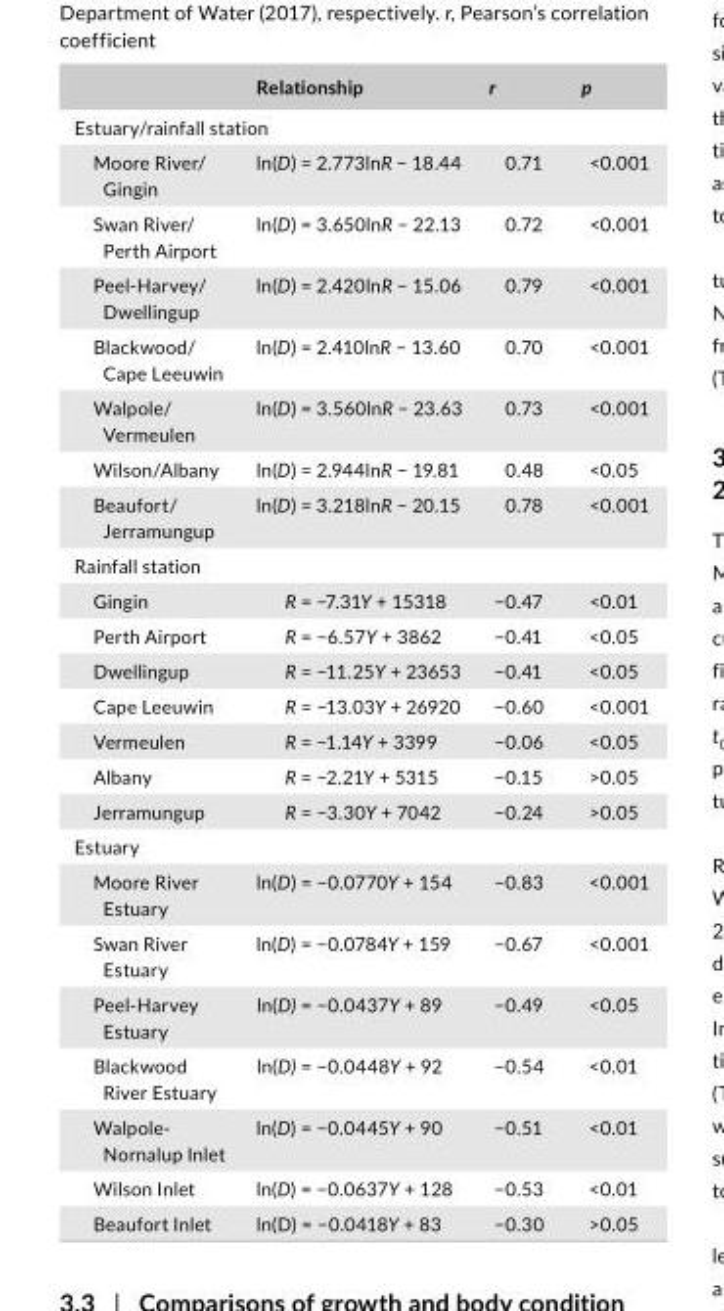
<table><thead><tr><td></td><td>Relationship</td><td>r</td><td>p</td></tr></thead><tbody><tr><td colspan="4">Estuary/rainfall station</td></tr><tr><td>Moore River/ Gingin</td><td>ln(D) = 2.773lnR − 18.44</td><td>0.71</td><td>&lt;0.001</td></tr><tr><td>Swan River/ Perth Airport</td><td>ln(D) = 3.650lnR − 22.13</td><td>0.72</td><td>&lt;0.001</td></tr><tr><td>Peel- Harvey/ Dwellingup</td><td>ln(D) = 2.420lnR − 15.06</td><td>0.79</td><td>&lt;0.001</td></tr><tr><td>Blackwood/ Cape Leeuwin</td><td>ln(D) = 2.410lnR − 13.60</td><td>0.70</td><td>&lt;0.001</td></tr><tr><td>Walpole/ Vermeulen</td><td>ln(D) = 3.560lnR − 23.63</td><td>0.73</td><td>&lt;0.001</td></tr><tr><td>Wilson/Albany</td><td>ln(D) = 2.944lnR − 19.81</td><td>0.48</td><td>&lt;0.05</td></tr><tr><td>Beaufort/ Jerramungup</td><td>ln(D) = 3.218lnR − 20.15</td><td>0.78</td><td>&lt;0.001</td></tr><tr><td colspan="4">Rainfall station</td></tr><tr><td>Gingin</td><td>R = −7.31Y + 15318</td><td>−0.47</td><td>&lt;0.01</td></tr><tr><td>Perth Airport</td><td>R = −6.57Y + 3862</td><td>−0.41</td><td>&lt;0.05</td></tr><tr><td>Dwellingup</td><td>R = −11.25Y + 23653</td><td>−0.41</td><td>&lt;0.05</td></tr><tr><td>Cape Leeuwin</td><td>R = −13.03Y + 26920</td><td>−0.60</td><td>&lt;0.001</td></tr><tr><td>Vermeulen</td><td>R = −1.14Y + 3399</td><td>−0.06</td><td>&lt;0.05</td></tr><tr><td>Albany</td><td>R = −2.21Y + 5315</td><td>−0.15</td><td>&gt;0.05</td></tr><tr><td>Jerramungup</td><td>R = −3.30Y + 7042</td><td>−0.24</td><td>&gt;0.05</td></tr><tr><td colspan="4">Estuary</td></tr><tr><td>Moore River Estuary</td><td>ln(D) = −0.0770Y + 154</td><td>−0.83</td><td>&lt;0.001</td></tr><tr><td>Swan River Estuary</td><td>ln(D) = −0.0784Y + 159</td><td>−0.67</td><td>&lt;0.001</td></tr><tr><td>Peel- Harvey Estuary</td><td>ln(D) = −0.0437Y + 89</td><td>−0.49</td><td>&lt;0.05</td></tr><tr><td>Blackwood River Estuary</td><td>ln(D) = −0.0448Y + 92</td><td>−0.54</td><td>&lt;0.01</td></tr><tr><td>Walpole- Nornalup Inlet</td><td>ln(D) = −0.0445Y + 90</td><td>−0.51</td><td>&lt;0.01</td></tr><tr><td>Wilson Inlet</td><td>ln(D) = −0.0637Y + 128</td><td>−0.53</td><td>&lt;0.01</td></tr><tr><td>Beaufort Inlet</td><td>ln(D) = −0.0418Y + 83</td><td>−0.30</td><td>&gt;0.05</td></tr></tbody></table>